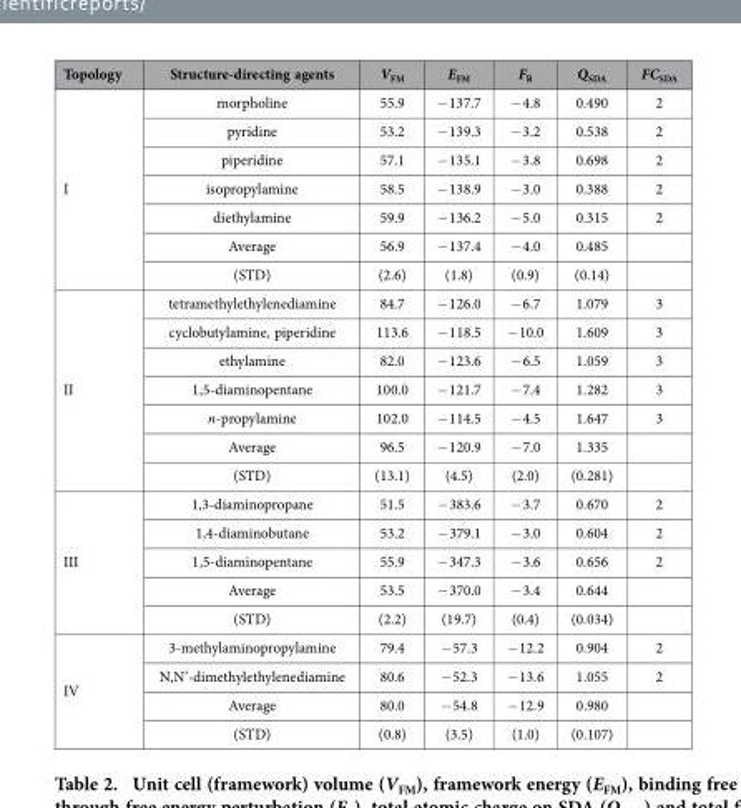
<table><thead><tr><td>Topology</td><td>Structure-directing agents</td><td>V<sub>FM</sub></td><td>E<sub>FM</sub></td><td>F<sub>B</sub></td><td>Q<sub>SDA</sub></td><td>FC<sub>SDA</sub></td></tr></thead><tbody><tr><td rowspan="7">I</td><td>morpholine</td><td>55.9</td><td>− 137.7</td><td>− 4.8</td><td>0.490</td><td>2</td></tr><tr><td>pyridine</td><td>53.2</td><td>− 139.3</td><td>− 3.2</td><td>0.538</td><td>2</td></tr><tr><td>piperidine</td><td>57.1</td><td>− 135.1</td><td>− 3.8</td><td>0.698</td><td>2</td></tr><tr><td>isopropylamine</td><td>58.5</td><td>− 138.9</td><td>− 3.0</td><td>0.388</td><td>2</td></tr><tr><td>diethylamine</td><td>59.9</td><td>− 136.2</td><td>− 5.0</td><td>0.315</td><td>2</td></tr><tr><td>Average</td><td>56.9</td><td>− 137.4</td><td>− 4.0</td><td>0.485</td><td></td></tr><tr><td>(STD)</td><td>(2.6)</td><td>(1.8)</td><td>(0.9)</td><td>(0.14)</td><td></td></tr><tr><td rowspan="7">II</td><td>tetramethylethylenediamine</td><td>84.7</td><td>− 126.0</td><td>− 6.7</td><td>1.079</td><td>3</td></tr><tr><td>cyclobutylamine, piperidine</td><td>113.6</td><td>− 118.5</td><td>− 10.0</td><td>1.609</td><td>3</td></tr><tr><td>ethylamine</td><td>82.0</td><td>− 123.6</td><td>− 6.5</td><td>1.059</td><td>3</td></tr><tr><td>1,5-diaminopentane</td><td>100.0</td><td>− 121.7</td><td>− 7.4</td><td>1.282</td><td>3</td></tr><tr><td>n-propylamine</td><td>102.0</td><td>− 114.5</td><td>− 4.5</td><td>1.647</td><td>3</td></tr><tr><td>Average</td><td>96.5</td><td>− 120.9</td><td>− 7.0</td><td>1.335</td><td></td></tr><tr><td>(STD)</td><td>(13.1)</td><td>(4.5)</td><td>(2.0)</td><td>(0.281)</td><td></td></tr><tr><td rowspan="5">III</td><td>1,3-diaminopropane</td><td>51.5</td><td>− 383.6</td><td>− 3.7</td><td>0.670</td><td>2</td></tr><tr><td>1,4-diaminobutane</td><td>53.2</td><td>− 379.1</td><td>− 3.0</td><td>0.604</td><td>2</td></tr><tr><td>1,5-diaminopentane</td><td>55.9</td><td>− 347.3</td><td>− 3.6</td><td>0.656</td><td>2</td></tr><tr><td>Average</td><td>53.5</td><td>− 370.0</td><td>− 3.4</td><td>0.644</td><td></td></tr><tr><td>(STD)</td><td>(2.2)</td><td>(19.7)</td><td>(0.4)</td><td>(0.034)</td><td></td></tr><tr><td rowspan="4">IV</td><td>3-methylaminopropylamine</td><td>79.4</td><td>− 57.3</td><td>− 12.2</td><td>0.904</td><td>2</td></tr><tr><td>N,N’-dimethylethylenediamine</td><td>80.6</td><td>− 52.3</td><td>− 13.6</td><td>1.055</td><td>2</td></tr><tr><td>Average</td><td>80.0</td><td>− 54.8</td><td>− 12.9</td><td>0.980</td><td></td></tr><tr><td>(STD)</td><td>(0.8)</td><td>(3.5)</td><td>(1.0)</td><td>(0.107)</td><td></td></tr></tbody></table>